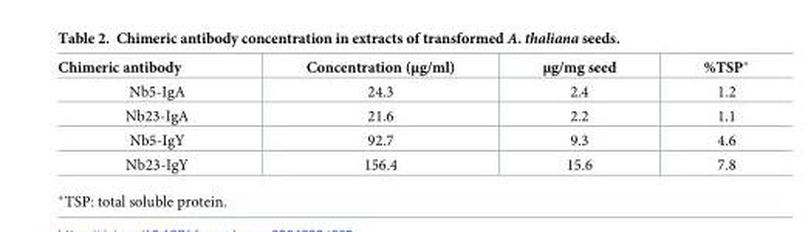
<table><thead><tr><td>Chimeric antibody</td><td>Concentration (μg/ml)</td><td>μg/mg seed</td><td>%TSP*</td></tr></thead><tbody><tr><td>Nb5-IgA</td><td>24.3</td><td>2.4</td><td>1.2</td></tr><tr><td>Nb23-IgA</td><td>21.6</td><td>2.2</td><td>1.1</td></tr><tr><td>Nb5-IgY</td><td>92.7</td><td>9.3</td><td>4.6</td></tr><tr><td>Nb23-IgY</td><td>156.4</td><td>15.6</td><td>7.8</td></tr></tbody></table>